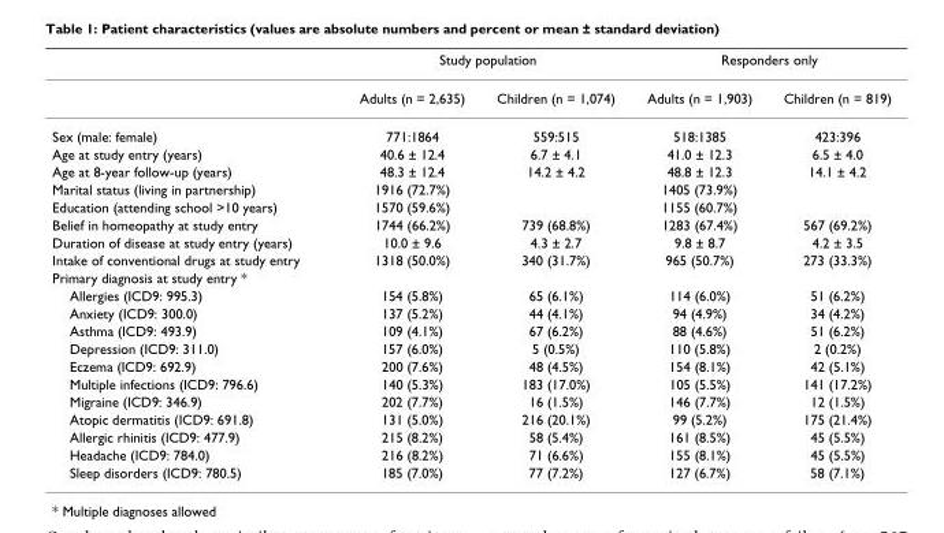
<table><thead><tr><td rowspan="2"></td><td colspan="2">Study population</td><td colspan="2">Responders only</td></tr><tr><td>Adults (n = 2,635)</td><td>Children (n = 1,074)</td><td>Adults (n = 1,903)</td><td>Children (n = 819)</td></tr></thead><tbody><tr><td>Sex (male: female)</td><td>771:1864</td><td>559:515</td><td>518:1385</td><td>423:396</td></tr><tr><td>Age at study entry (years)</td><td>40.6 ± 12.4</td><td>6.7 ± 4.1</td><td>41.0 ± 12.3</td><td>6.5 ± 4.0</td></tr><tr><td>Age at 8-year follow-up (years)</td><td>48.3 ± 12.4</td><td>14.2 ± 4.2</td><td>48.8 ± 12.3</td><td>14.1 ± 4.2</td></tr><tr><td>Marital status (living in partnership)</td><td>1916 (72.7%)</td><td></td><td>1405 (73.9%)</td><td></td></tr><tr><td>Education (attending school &gt;10 years)</td><td>1570 (59.6%)</td><td></td><td>1155 (60.7%)</td><td></td></tr><tr><td>Belief in homeopathy at study entry</td><td>1744 (66.2%)</td><td>739 (68.8%)</td><td>1283 (67.4%)</td><td>567 (69.2%)</td></tr><tr><td>Duration of disease at study entry (years)</td><td>10.0 ± 9.6</td><td>4.3 ± 2.7</td><td>9.8 ± 8.7</td><td>4.2 ± 3.5</td></tr><tr><td>Intake of conventional drugs at study entry</td><td>1318 (50.0%)</td><td>340 (31.7%)</td><td>965 (50.7%)</td><td>273 (33.3%)</td></tr><tr><td colspan="5">Primary diagnosis at study entry *</td></tr><tr><td>Allergies (ICD9: 995.3)</td><td>154 (5.8%)</td><td>65 (6.1%)</td><td>114 (6.0%)</td><td>51 (6.2%)</td></tr><tr><td>Anxiety (ICD9: 300.0)</td><td>137 (5.2%)</td><td>44 (4.1%)</td><td>94 (4.9%)</td><td>34 (4.2%)</td></tr><tr><td>Asthma (ICD9: 493.9)</td><td>109 (4.1%)</td><td>67 (6.2%)</td><td>88 (4.6%)</td><td>51 (6.2%)</td></tr><tr><td>Depression (ICD9: 311.0)</td><td>157 (6.0%)</td><td>5 (0.5%)</td><td>110 (5.8%)</td><td>2 (0.2%)</td></tr><tr><td>Eczema (ICD9: 692.9)</td><td>200 (7.6%)</td><td>48 (4.5%)</td><td>154 (8.1%)</td><td>42 (5.1%)</td></tr><tr><td>Multiple infections (ICD9: 796.6)</td><td>140 (5.3%)</td><td>183 (17.0%)</td><td>105 (5.5%)</td><td>141 (17.2%)</td></tr><tr><td>Migraine (ICD9: 346.9)</td><td>202 (7.7%)</td><td>16 (1.5%)</td><td>146 (7.7%)</td><td>12 (1.5%)</td></tr><tr><td>Atopic dermatitis (ICD9: 691.8)</td><td>131 (5.0%)</td><td>216 (20.1%)</td><td>99 (5.2%)</td><td>175 (21.4%)</td></tr><tr><td>Allergic rhinitis (ICD9: 477.9)</td><td>215 (8.2%)</td><td>58 (5.4%)</td><td>161 (8.5%)</td><td>45 (5.5%)</td></tr><tr><td>Headache (ICD9: 784.0)</td><td>216 (8.2%)</td><td>71 (6.6%)</td><td>155 (8.1%)</td><td>45 (5.5%)</td></tr><tr><td>Sleep disorders (ICD9: 780.5)</td><td>185 (7.0%)</td><td>77 (7.2%)</td><td>127 (6.7%)</td><td>58 (7.1%)</td></tr></tbody></table>